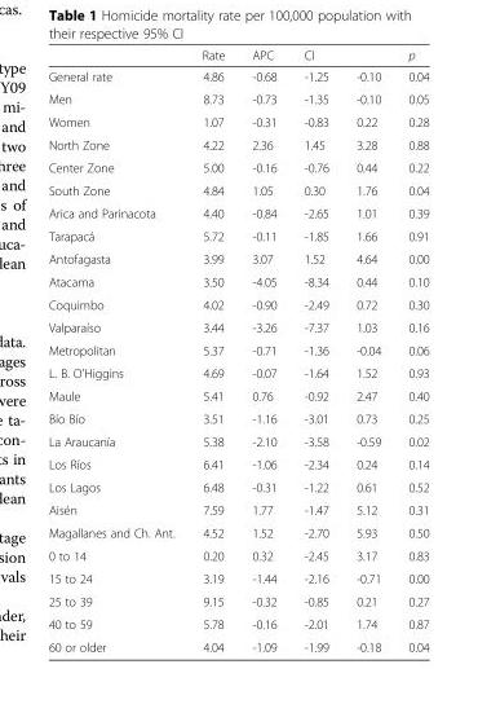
<table><thead><tr><td rowspan="2">General rate</td><td rowspan="2">Rate 4.86</td><td rowspan="2">APC -0.68</td><td colspan="2">CI</td><td rowspan="2">p 0.04</td></tr><tr><td>-1.25</td><td>-0.10</td></tr></thead><tbody><tr><td>Men</td><td>8.73</td><td>-0.73</td><td>-1.35</td><td>-0.10</td><td>0.05</td></tr><tr><td>Women</td><td>1.07</td><td>-0.31</td><td>-0.83</td><td>0.22</td><td>0.28</td></tr><tr><td>North Zone</td><td>4.22</td><td>2.36</td><td>1.45</td><td>3.28</td><td>0.88</td></tr><tr><td>Center Zone</td><td>5.00</td><td>-0.16</td><td>-0.76</td><td>0.44</td><td>0.22</td></tr><tr><td>South Zone</td><td>4.84</td><td>1.05</td><td>0.30</td><td>1.76</td><td>0.04</td></tr><tr><td>Arica and Parinacota</td><td>4.40</td><td>-0.84</td><td>-2.65</td><td>1.01</td><td>0.39</td></tr><tr><td>Tarapacá</td><td>5.72</td><td>-0.11</td><td>-1.85</td><td>1.66</td><td>0.91</td></tr><tr><td>Antofagasta</td><td>3.99</td><td>3.07</td><td>1.52</td><td>4.64</td><td>0.00</td></tr><tr><td>Atacama</td><td>3.50</td><td>-4.05</td><td>-8.34</td><td>0.44</td><td>0.10</td></tr><tr><td>Coquimbo</td><td>4.02</td><td>-0.90</td><td>-2.49</td><td>0.72</td><td>0.30</td></tr><tr><td>Valparaíso</td><td>3.44</td><td>-3.26</td><td>-7.37</td><td>1.03</td><td>0.16</td></tr><tr><td>Metropolitan</td><td>5.37</td><td>-0.71</td><td>-1.36</td><td>-0.04</td><td>0.06</td></tr><tr><td>L. B. O&#x27;Higgins</td><td>4.69</td><td>-0.07</td><td>-1.64</td><td>1.52</td><td>0.93</td></tr><tr><td>Maule</td><td>5.41</td><td>0.76</td><td>-0.92</td><td>2.47</td><td>0.40</td></tr><tr><td>Bío Bío</td><td>3.51</td><td>-1.16</td><td>-3.01</td><td>0.73</td><td>0.25</td></tr><tr><td>La Araucanía</td><td>5.38</td><td>-2.10</td><td>-3.58</td><td>-0.59</td><td>0.02</td></tr><tr><td>Los Ríos</td><td>6.41</td><td>-1.06</td><td>-2.34</td><td>0.24</td><td>0.14</td></tr><tr><td>Los Lagos</td><td>6.48</td><td>-0.31</td><td>-1.22</td><td>0.61</td><td>0.52</td></tr><tr><td>Aisén</td><td>7.59</td><td>1.77</td><td>-1.47</td><td>5.12</td><td>0.31</td></tr><tr><td>Magallanes and Ch. Ant.</td><td>4.52</td><td>1.52</td><td>-2.70</td><td>5.93</td><td>0.50</td></tr><tr><td>0 to 14</td><td>0.20</td><td>0.32</td><td>-2.45</td><td>3.17</td><td>0.83</td></tr><tr><td>15 to 24</td><td>3.19</td><td>-1.44</td><td>-2.16</td><td>-0.71</td><td>0.00</td></tr><tr><td>25 to 39</td><td>9.15</td><td>-0.32</td><td>-0.85</td><td>0.21</td><td>0.27</td></tr><tr><td>40 to 59</td><td>5.78</td><td>-0.16</td><td>-2.01</td><td>1.74</td><td>0.87</td></tr><tr><td>60 or older</td><td>4.04</td><td>-1.09</td><td>-1.99</td><td>-0.18</td><td>0.04</td></tr></tbody></table>